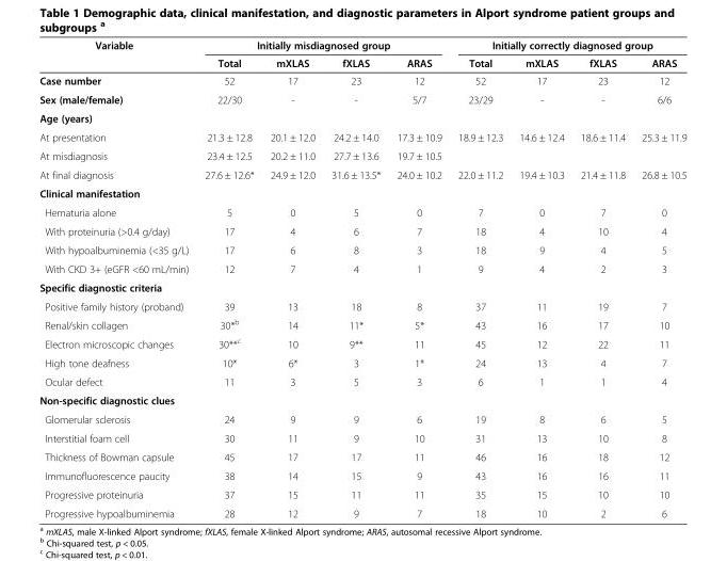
<table><thead><tr><td rowspan="2">Variable</td><td colspan="4">Initially misdiagnosed group</td><td colspan="4">Initially correctly diagnosed group</td></tr><tr><td>Total</td><td>mXLAS</td><td>fXLAS</td><td>ARAS</td><td>Total</td><td>mXLAS</td><td>fXLAS</td><td>ARAS</td></tr></thead><tbody><tr><td>Case number</td><td>52</td><td>17</td><td>23</td><td>12</td><td>52</td><td>17</td><td>23</td><td>12</td></tr><tr><td>Sex (male/female)</td><td>22/30</td><td>-</td><td>-</td><td>5/7</td><td>23/29</td><td>-</td><td>-</td><td>6/6</td></tr><tr><td colspan="9">Age (years)</td></tr><tr><td>At presentation</td><td>21.3 ± 12.8</td><td>20.1 ± 12.0</td><td>24.2 ± 14.0</td><td>17.3 ± 10.9</td><td>18.9 ± 12.3</td><td>14.6 ± 12.4</td><td>18.6 ± 11.4</td><td>25.3 ± 11.9</td></tr><tr><td>At misdiagnosis</td><td>23.4 ± 12.5</td><td>20.2 ± 11.0</td><td>27.7 ± 13.6</td><td>19.7 ± 10.5</td><td></td><td></td><td></td><td></td></tr><tr><td>At final diagnosis</td><td>27.6 ± 12.6*</td><td>24.9 ± 12.0</td><td>31.6 ± 13.5*</td><td>24.0 ± 10.2</td><td>22.0 ± 11.2</td><td>19.4 ± 10.3</td><td>21.4 ± 11.8</td><td>26.8 ± 10.5</td></tr><tr><td colspan="9">Clinical manifestation</td></tr><tr><td>Hematuria alone</td><td>5</td><td>0</td><td>5</td><td>0</td><td>7</td><td>0</td><td>7</td><td>0</td></tr><tr><td>With proteinuria (&gt;0.4 g/day)</td><td>17</td><td>4</td><td>6</td><td>7</td><td>18</td><td>4</td><td>10</td><td>4</td></tr><tr><td>With hypoalbuminemia (&lt;35 g/L)</td><td>17</td><td>6</td><td>8</td><td>3</td><td>18</td><td>9</td><td>4</td><td>5</td></tr><tr><td>With CKD 3+ (eGFR &lt;60 mL/min)</td><td>12</td><td>7</td><td>4</td><td>1</td><td>9</td><td>4</td><td>2</td><td>3</td></tr><tr><td colspan="9">Specific diagnostic criteria</td></tr><tr><td>Positive family history (proband)</td><td>39</td><td>13</td><td>18</td><td>8</td><td>37</td><td>11</td><td>19</td><td>7</td></tr><tr><td>Renal/skin collagen</td><td>30*<sup>b</sup></td><td>14</td><td>11*</td><td>5*</td><td>43</td><td>16</td><td>17</td><td>10</td></tr><tr><td>Electron microscopic changes</td><td>30**<sup>c</sup></td><td>10</td><td>9**</td><td>11</td><td>45</td><td>12</td><td>22</td><td>11</td></tr><tr><td>High tone deafness</td><td>10*</td><td>6*</td><td>3</td><td>1*</td><td>24</td><td>13</td><td>4</td><td>7</td></tr><tr><td>Ocular defect</td><td>11</td><td>3</td><td>5</td><td>3</td><td>6</td><td>1</td><td>1</td><td>4</td></tr><tr><td colspan="9">Non-specific diagnostic clues</td></tr><tr><td>Glomerular sclerosis</td><td>24</td><td>9</td><td>9</td><td>6</td><td>19</td><td>8</td><td>6</td><td>5</td></tr><tr><td>Interstitial foam cell</td><td>30</td><td>11</td><td>9</td><td>10</td><td>31</td><td>13</td><td>10</td><td>8</td></tr><tr><td>Thickness of Bowman capsule</td><td>45</td><td>17</td><td>17</td><td>11</td><td>46</td><td>16</td><td>18</td><td>12</td></tr><tr><td>Immunofluorescence paucity</td><td>38</td><td>14</td><td>15</td><td>9</td><td>43</td><td>16</td><td>16</td><td>11</td></tr><tr><td>Progressive proteinuria</td><td>37</td><td>15</td><td>11</td><td>11</td><td>35</td><td>15</td><td>10</td><td>10</td></tr><tr><td>Progressive hypoalbuminemia</td><td>28</td><td>12</td><td>9</td><td>7</td><td>18</td><td>10</td><td>2</td><td>6</td></tr></tbody></table>